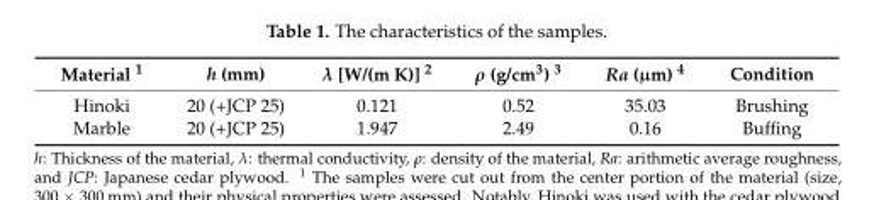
<table><thead><tr><td>Material <sup>1</sup></td><td>h (mm)</td><td>λ [W/(m K)] <sup>2</sup></td><td>ρ (g/cm<sup>3</sup>) <sup>3</sup></td><td>Ra (µm) <sup>4</sup></td><td>Condition</td></tr></thead><tbody><tr><td>Hinoki</td><td>20 (+JCP 25)</td><td>0.121</td><td>0.52</td><td>35.03</td><td>Brushing</td></tr><tr><td>Marble</td><td>20 (+JCP 25)</td><td>1.947</td><td>2.49</td><td>0.16</td><td>Buffing</td></tr></tbody></table>